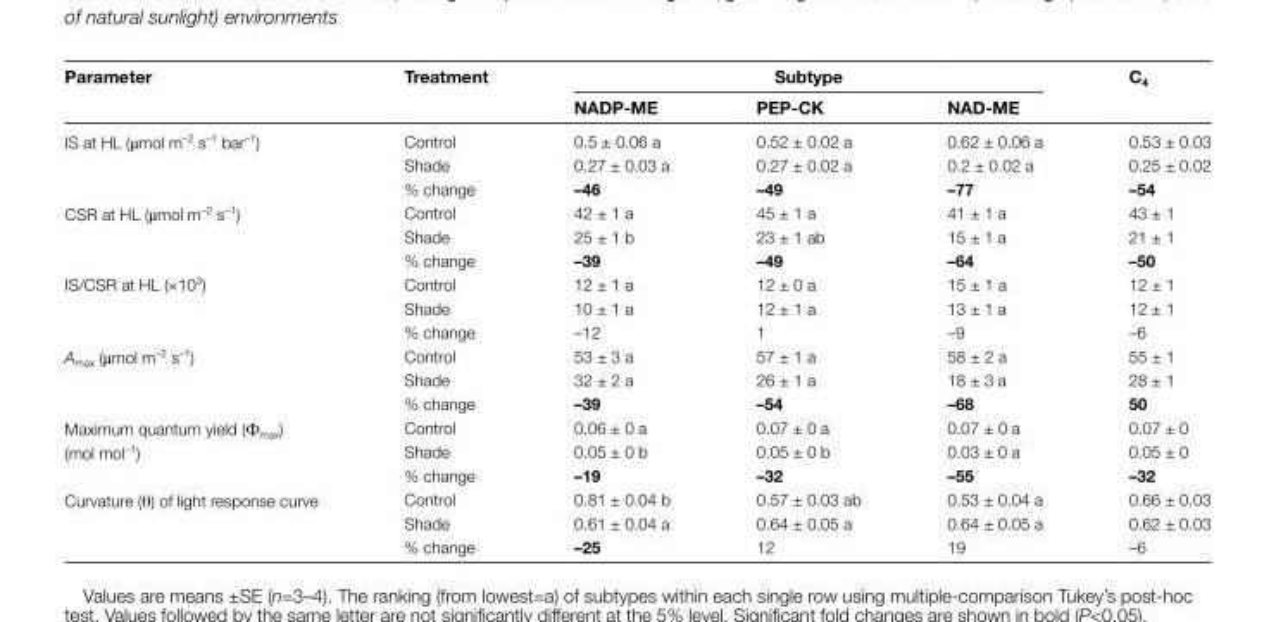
<table><thead><tr><td rowspan="2">Parameter</td><td rowspan="2">Treatment</td><td colspan="3">Subtype</td><td rowspan="2">C<sub>4</sub></td></tr><tr><td>NADP-ME</td><td>PEP-CK</td><td>NAD-ME</td></tr></thead><tbody><tr><td rowspan="3">IS at HL (µmol m<sup>–2</sup> s<sup>–1</sup> bar<sup>–1</sup>)</td><td>Control</td><td>0.5 ± 0.06 a</td><td>0.52 ± 0.02 a</td><td>0.62 ± 0.06 a</td><td>0.53 ± 0.03</td></tr><tr><td>Shade</td><td>0.27 ± 0.03 a</td><td>0.27 ± 0.02 a</td><td>0.2 ± 0.02 a</td><td>0.25 ± 0.02</td></tr><tr><td>% change</td><td>–46</td><td>–49</td><td>–77</td><td>–54</td></tr><tr><td rowspan="3">CSR at HL (µmol m<sup>–2</sup> s<sup>–1</sup>)</td><td>Control</td><td>42 ± 1 a</td><td>45 ± 1 a</td><td>41 ± 1 a</td><td>43 ± 1</td></tr><tr><td>Shade</td><td>25 ± 1 b</td><td>23 ± 1 ab</td><td>15 ± 1 a</td><td>21 ± 1</td></tr><tr><td>% change</td><td>–39</td><td>–49</td><td>–64</td><td>–50</td></tr><tr><td rowspan="3">IS/CSR at HL (×10<sup>3</sup>)</td><td>Control</td><td>12 ± 1 a</td><td>12 ± 0 a</td><td>15 ± 1 a</td><td>12 ± 1</td></tr><tr><td>Shade</td><td>10 ± 1 a</td><td>12 ± 1 a</td><td>13 ± 1 a</td><td>12 ± 1</td></tr><tr><td>% change</td><td>–12</td><td>1</td><td>–9</td><td>–6</td></tr><tr><td rowspan="3">A<sub>max</sub> (µmol m<sup>–2</sup> s<sup>–1</sup>)</td><td>Control</td><td>53 ± 3 a</td><td>57 ± 1 a</td><td>58 ± 2 a</td><td>55 ± 1</td></tr><tr><td>Shade</td><td>32 ± 2 a</td><td>26 ± 1 a</td><td>18 ± 3 a</td><td>28 ± 1</td></tr><tr><td>% change</td><td>–39</td><td>–54</td><td>–68</td><td>50</td></tr><tr><td rowspan="3">Maximum quantum yield (Ф<sub>max</sub>) (mol mol<sup>–1</sup>)</td><td>Control</td><td>0.06 ± 0 a</td><td>0.07 ± 0 a</td><td>0.07 ± 0 a</td><td>0.07 ± 0</td></tr><tr><td>Shade</td><td>0.05 ± 0 b</td><td>0.05 ± 0 b</td><td>0.03 ± 0 a</td><td>0.05 ± 0</td></tr><tr><td>% change</td><td>–19</td><td>–32</td><td>–55</td><td>–32</td></tr><tr><td rowspan="3">Curvature (θ) of light response curve</td><td>Control</td><td>0.81 ± 0.04 b</td><td>0.57 ± 0.03 ab</td><td>0.53 ± 0.04 a</td><td>0.66 ± 0.03</td></tr><tr><td>Shade</td><td>0.61 ± 0.04 a</td><td>0.64 ± 0.05 a</td><td>0.64 ± 0.05 a</td><td>0.62 ± 0.03</td></tr><tr><td>% change</td><td>–25</td><td>12</td><td>19</td><td>–6</td></tr></tbody></table>